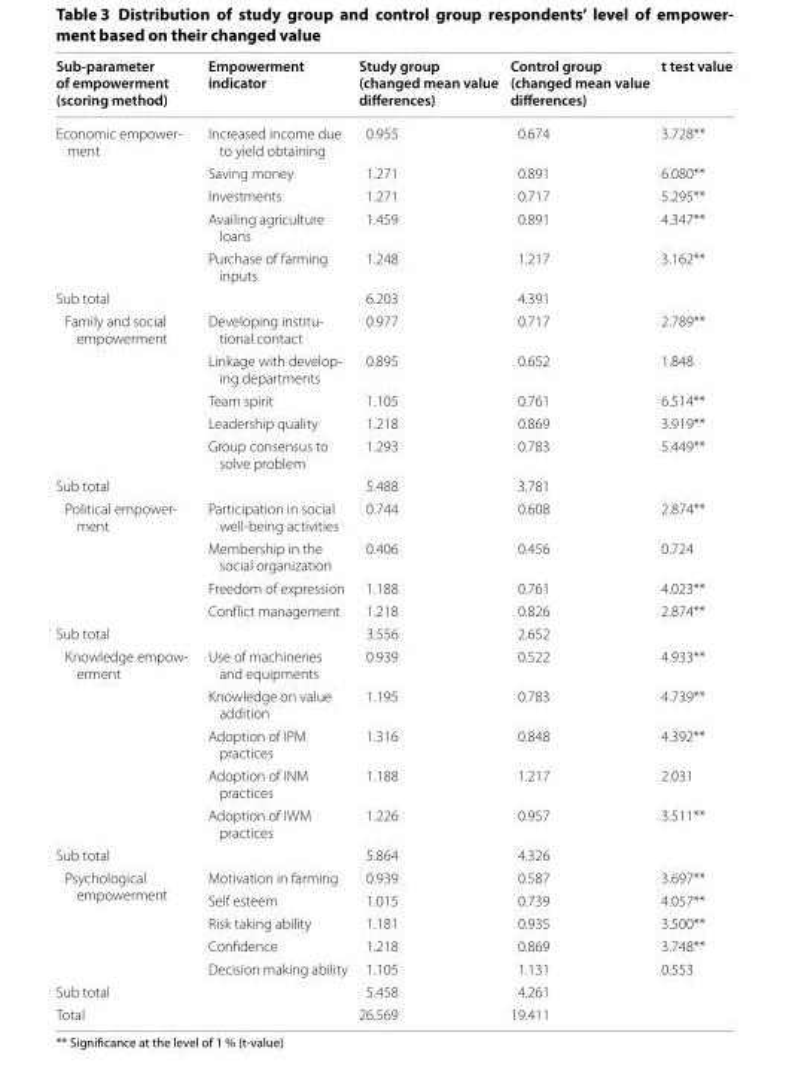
<table><thead><tr><td>Sub‑parameter of empowerment (scoring method)</td><td>Empowerment indicator</td><td>Study group (changed mean value differences)</td><td>Control group (changed mean value differences)</td><td>t test value</td></tr></thead><tbody><tr><td rowspan="5">Economic empower- ment</td><td>Increased income due to yield obtaining</td><td>0.955</td><td>0.674</td><td>3.728**</td></tr><tr><td>Saving money</td><td>1.271</td><td>0.891</td><td>6.080**</td></tr><tr><td>Investments</td><td>1.271</td><td>0.717</td><td>5.295**</td></tr><tr><td>Availing agriculture loans</td><td>1.459</td><td>0.891</td><td>4.347**</td></tr><tr><td>Purchase of farming inputs</td><td>1.248</td><td>1.217</td><td>3.162**</td></tr><tr><td>Sub total</td><td></td><td>6.203</td><td>4.391</td><td></td></tr><tr><td rowspan="5">Family and social empowerment</td><td>Developing institu- tional contact</td><td>0.977</td><td>0.717</td><td>2.789**</td></tr><tr><td>Linkage with develop- ing departments</td><td>0.895</td><td>0.652</td><td>1.848</td></tr><tr><td>Team spirit</td><td>1.105</td><td>0.761</td><td>6.514**</td></tr><tr><td>Leadership quality</td><td>1.218</td><td>0.869</td><td>3.919**</td></tr><tr><td>Group consensus to solve problem</td><td>1.293</td><td>0.783</td><td>5.449**</td></tr><tr><td>Sub total</td><td></td><td>5.488</td><td>3.781</td><td></td></tr><tr><td rowspan="4">Political empower- ment</td><td>Participation in social well-being activities</td><td>0.744</td><td>0.608</td><td>2.874**</td></tr><tr><td>Membership in the social organization</td><td>0.406</td><td>0.456</td><td>0.724</td></tr><tr><td>Freedom of expression</td><td>1.188</td><td>0.761</td><td>4.023**</td></tr><tr><td>Conflict management</td><td>1.218</td><td>0.826</td><td>2.874**</td></tr><tr><td>Sub total</td><td></td><td>3.556</td><td>2.652</td><td></td></tr><tr><td rowspan="5">Knowledge empow- erment</td><td>Use of machineries and equipments</td><td>0.939</td><td>0.522</td><td>4.933**</td></tr><tr><td>Knowledge on value addition</td><td>1.195</td><td>0.783</td><td>4.739**</td></tr><tr><td>Adoption of IPM practices</td><td>1.316</td><td>0.848</td><td>4.392**</td></tr><tr><td>Adoption of INM practices</td><td>1.188</td><td>1.217</td><td>2.031</td></tr><tr><td>Adoption of IWM practices</td><td>1.226</td><td>0.957</td><td>3.511**</td></tr><tr><td>Sub total</td><td></td><td>5.864</td><td>4.326</td><td></td></tr><tr><td rowspan="5">Psychological empowerment</td><td>Motivation in farming</td><td>0.939</td><td>0.587</td><td>3.697**</td></tr><tr><td>Self esteem</td><td>1.015</td><td>0.739</td><td>4.057**</td></tr><tr><td>Risk taking ability</td><td>1.181</td><td>0.935</td><td>3.500**</td></tr><tr><td>Confidence</td><td>1.218</td><td>0.869</td><td>3.748**</td></tr><tr><td>Decision making ability</td><td>1.105</td><td>1.131</td><td>0.553</td></tr><tr><td>Sub total</td><td></td><td>5.458</td><td>4.261</td><td></td></tr><tr><td>Total</td><td></td><td>26.569</td><td>19.411</td><td></td></tr></tbody></table>